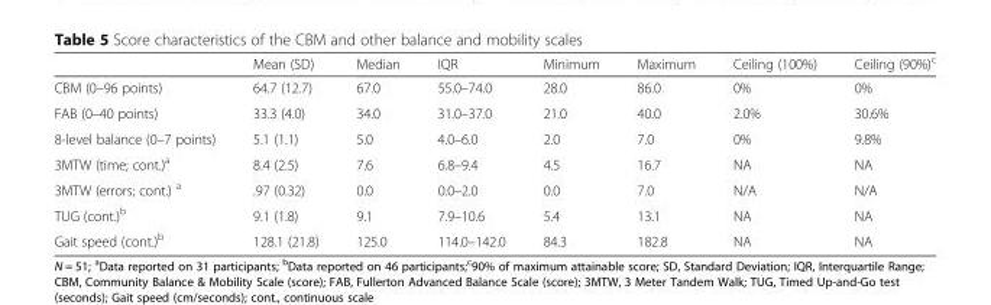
<table><thead><tr><td></td><td>Mean (SD)</td><td>Median</td><td>IQR</td><td>Minimum</td><td>Maximum</td><td>Ceiling (100%)</td><td>Ceiling (90%)<sup>c</sup></td></tr></thead><tbody><tr><td>CBM (0–96 points)</td><td>64.7 (12.7)</td><td>67.0</td><td>55.0–74.0</td><td>28.0</td><td>86.0</td><td>0%</td><td>0%</td></tr><tr><td>FAB (0–40 points)</td><td>33.3 (4.0)</td><td>34.0</td><td>31.0–37.0</td><td>21.0</td><td>40.0</td><td>2.0%</td><td>30.6%</td></tr><tr><td>8-level balance (0–7 points)</td><td>5.1 (1.1)</td><td>5.0</td><td>4.0–6.0</td><td>2.0</td><td>7.0</td><td>0%</td><td>9.8%</td></tr><tr><td>3MTW (time; cont.)<sup>a</sup></td><td>8.4 (2.5)</td><td>7.6</td><td>6.8–9.4</td><td>4.5</td><td>16.7</td><td>NA</td><td>NA</td></tr><tr><td>3MTW (errors; cont.) <sup>a</sup></td><td>.97 (0.32)</td><td>0.0</td><td>0.0–2.0</td><td>0.0</td><td>7.0</td><td>N/A</td><td>N/A</td></tr><tr><td>TUG (cont.)<sup>b</sup></td><td>9.1 (1.8)</td><td>9.1</td><td>7.9–10.6</td><td>5.4</td><td>13.1</td><td>NA</td><td>NA</td></tr><tr><td>Gait speed (cont.)<sup>b</sup></td><td>128.1 (21.8)</td><td>125.0</td><td>114.0–142.0</td><td>84.3</td><td>182.8</td><td>NA</td><td>NA</td></tr></tbody></table>